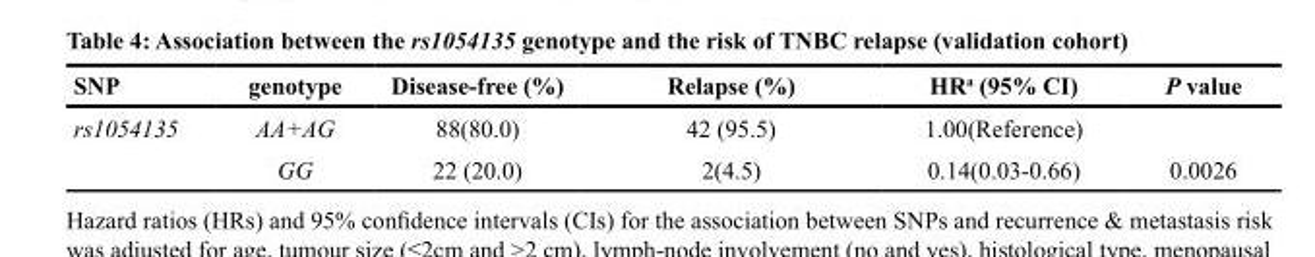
<table><thead><tr><td>SNP</td><td>genotype</td><td>Disease-free (%)</td><td>Relapse (%)</td><td>HR<sup>a</sup> (95% CI)</td><td>P value</td></tr></thead><tbody><tr><td rowspan="2">rs1054135</td><td>AA+AG</td><td>88(80.0)</td><td>42 (95.5)</td><td>1.00(Reference)</td><td></td></tr><tr><td>GG</td><td>22 (20.0)</td><td>2(4.5)</td><td>0.14(0.03-0.66)</td><td>0.0026</td></tr></tbody></table>